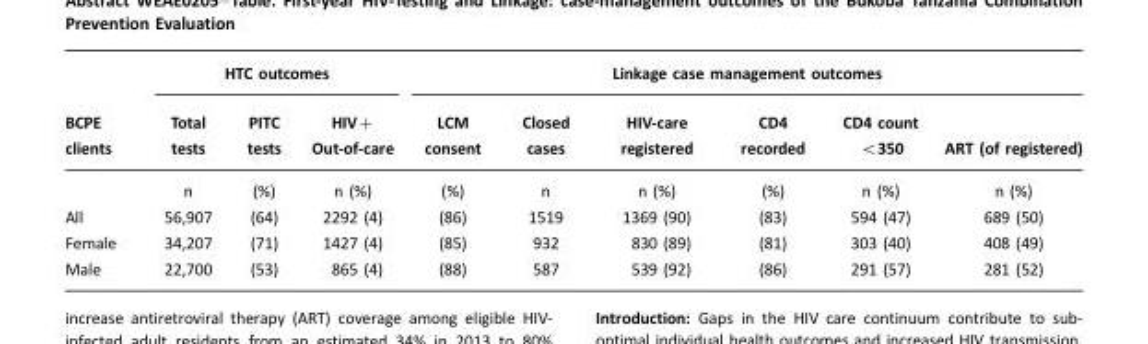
<table><thead><tr><td rowspan="2">BCPE clients</td><td colspan="3">HTC outcomes</td><td colspan="6">Linkage case management outcomes</td></tr><tr><td>Total tests</td><td>PITC tests</td><td>HIV+ Out-of-care</td><td>LCM consent</td><td>Closed cases</td><td>HIV-care registered</td><td>CD4 recorded</td><td>CD4 count &lt;350</td><td>ART (of registered)</td></tr></thead><tbody><tr><td></td><td>n</td><td>(%)</td><td>n (%)</td><td>(%)</td><td>n</td><td>n (%)</td><td>(%)</td><td>n (%)</td><td>n (%)</td></tr><tr><td>All</td><td>56,907</td><td>(64)</td><td>2292 (4)</td><td>(86)</td><td>1519</td><td>1369 (90)</td><td>(83)</td><td>594 (47)</td><td>689 (50)</td></tr><tr><td>Female</td><td>34,207</td><td>(71)</td><td>1427 (4)</td><td>(85)</td><td>932</td><td>830 (89)</td><td>(81)</td><td>303 (40)</td><td>408 (49)</td></tr><tr><td>Male</td><td>22,700</td><td>(53)</td><td>865 (4)</td><td>(88)</td><td>587</td><td>539 (92)</td><td>(86)</td><td>291 (57)</td><td>281 (52)</td></tr></tbody></table>